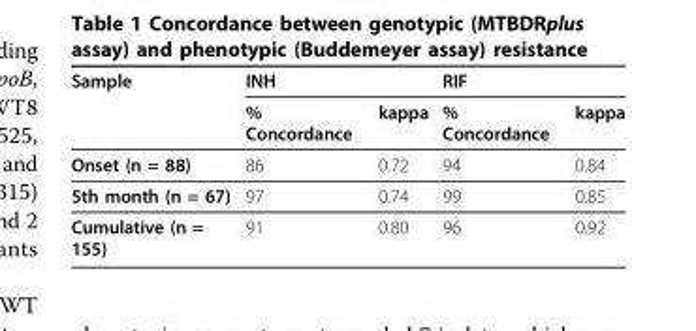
<table><thead><tr><td rowspan="2">Sample</td><td colspan="2">INH</td><td colspan="2">RIF</td></tr><tr><td>% Concordance</td><td>kappa</td><td>% Concordance</td><td>kappa</td></tr></thead><tbody><tr><td>Onset (n = 88)</td><td>86</td><td>0.72</td><td>94</td><td>0.84</td></tr><tr><td>5th month (n = 67)</td><td>97</td><td>0.74</td><td>99</td><td>0.85</td></tr><tr><td>Cumulative (n = 155)</td><td>91</td><td>0.80</td><td>96</td><td>0.92</td></tr></tbody></table>